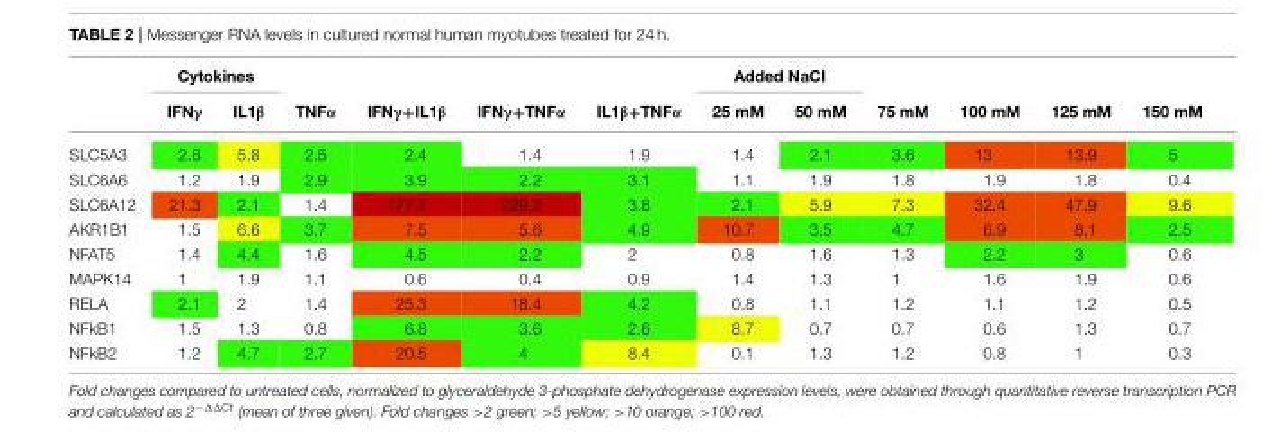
<table><thead><tr><td rowspan="2"></td><td colspan="2">Cytokines</td><td rowspan="2">TNFα</td><td rowspan="2">IFNγ+IL1β</td><td rowspan="2">IFNγ+TNFα</td><td rowspan="2">IL1β+TNFα</td><td colspan="2">Added NaCl</td><td rowspan="2">75 mM</td><td rowspan="2">100 mM</td><td rowspan="2">125 mM</td><td rowspan="2">150 mM</td></tr><tr><td>IFNγ</td><td>IL1β</td><td>25 mM</td><td>50 mM</td></tr></thead><tbody><tr><td>SLC5A3</td><td>2.6</td><td>5.8</td><td>2.5</td><td>2.4</td><td>1.4</td><td>1.9</td><td>1.4</td><td>2.1</td><td>3.6</td><td>13</td><td>13.9</td><td>5</td></tr><tr><td>SLC6A6</td><td>1.2</td><td>1.9</td><td>2.9</td><td>3.9</td><td>2.2</td><td>3.1</td><td>1.1</td><td>1.9</td><td>1.8</td><td>1.9</td><td>1.8</td><td>0.4</td></tr><tr><td>SLC6A12</td><td>21.3</td><td>2.1</td><td>1.4</td><td>177.7</td><td>229.2</td><td>3.8</td><td>2.1</td><td>5.9</td><td>7.3</td><td>32.4</td><td>47.9</td><td>9.6</td></tr><tr><td>AKR1B1</td><td>1.5</td><td>6.6</td><td>3.7</td><td>7.5</td><td>5.6</td><td>4.9</td><td>10.7</td><td>3.5</td><td>4.7</td><td>6.9</td><td>8.1</td><td>2.5</td></tr><tr><td>NFAT5</td><td>1.4</td><td>4.4</td><td>1.6</td><td>4.5</td><td>2.2</td><td>2</td><td>0.8</td><td>1.6</td><td>1.3</td><td>2.2</td><td>3</td><td>0.6</td></tr><tr><td>MAPK14</td><td>1</td><td>1.9</td><td>1.1</td><td>0.6</td><td>0.4</td><td>0.9</td><td>1.4</td><td>1.3</td><td>1</td><td>1.6</td><td>1.9</td><td>0.6</td></tr><tr><td>RELA</td><td>2.1</td><td>2</td><td>1.4</td><td>25.3</td><td>18.4</td><td>4.2</td><td>0.8</td><td>1.1</td><td>1.2</td><td>1.1</td><td>1.2</td><td>0.5</td></tr><tr><td>NFkB1</td><td>1.5</td><td>1.3</td><td>0.8</td><td>6.8</td><td>3.6</td><td>2.6</td><td>8.7</td><td>0.7</td><td>0.7</td><td>0.6</td><td>1.3</td><td>0.7</td></tr><tr><td>NFkB2</td><td>1.2</td><td>4.7</td><td>2.7</td><td>20.5</td><td>4</td><td>8.4</td><td>0.1</td><td>1.3</td><td>1.2</td><td>0.8</td><td>1</td><td>0.3</td></tr></tbody></table>